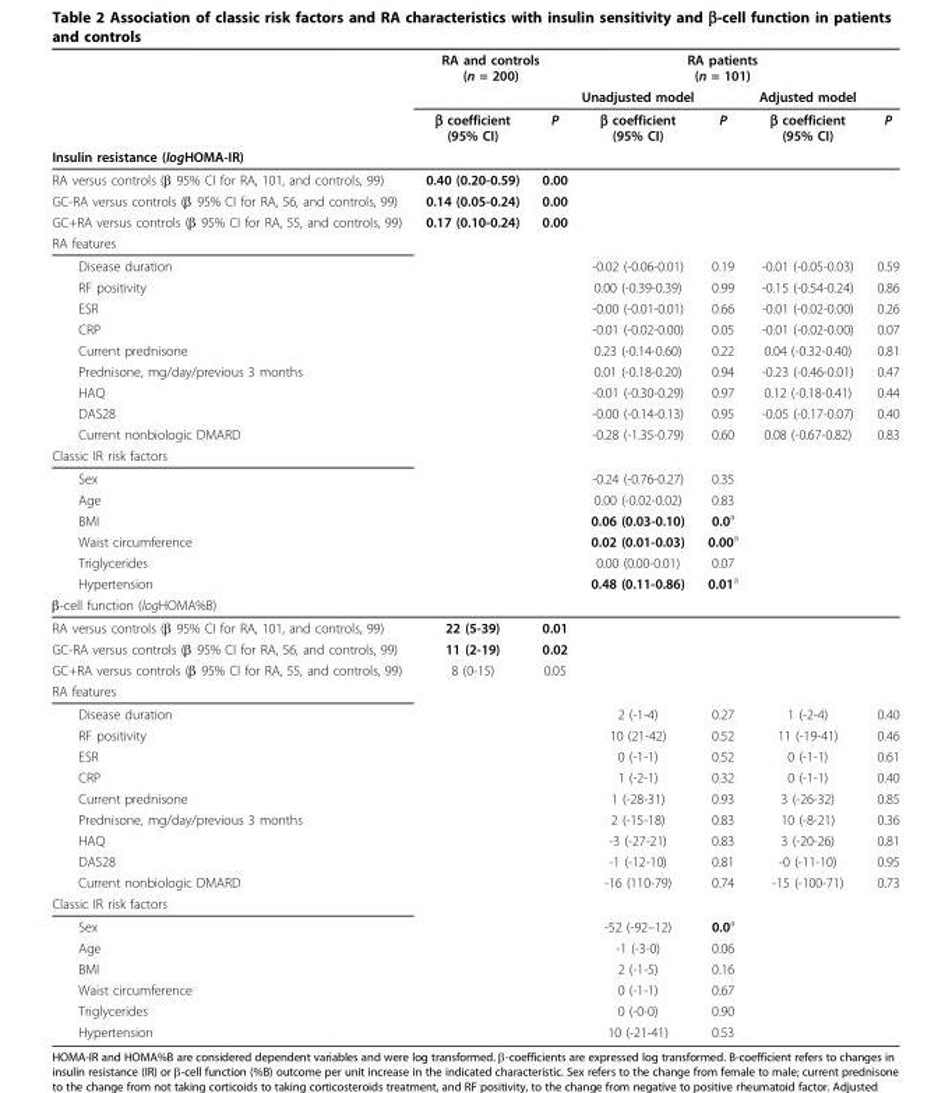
<table><thead><tr><td rowspan="4">Insulin resistance (logHOMA-IR)</td><td colspan="2">RA and controls (n = 200)</td><td colspan="3">RA patients (n = 101)</td><td rowspan="4">P</td></tr><tr><td rowspan="3">β coefficient (95% CI)</td><td rowspan="3">P</td><td rowspan="3">Unadjusted model β coefficient (95% CI)</td><td rowspan="3">P</td><td rowspan="3">Adjusted model β coefficient (95% CI)</td></tr><tr></tr><tr></tr></thead><tbody><tr><td>RA versus controls (β 95% CI for RA, 101, and controls, 99)</td><td>0.40 (0.20-0.59)</td><td>0.00</td><td></td><td></td><td></td><td></td></tr><tr><td>GC-RA versus controls (β 95% CI for RA, 56, and controls, 99)</td><td>0.14 (0.05-0.24)</td><td>0.00</td><td></td><td></td><td></td><td></td></tr><tr><td>GC+RA versus controls (β 95% CI for RA, 55, and controls, 99)</td><td>0.17 (0.10-0.24)</td><td>0.00</td><td></td><td></td><td></td><td></td></tr><tr><td colspan="7">RA features</td></tr><tr><td>Disease duration</td><td></td><td></td><td>-0.02 (-0.06-0.01)</td><td>0.19</td><td>-0.01 (-0.05-0.03)</td><td>0.59</td></tr><tr><td>RF positivity</td><td></td><td></td><td>0.00 (-0.39-0.39)</td><td>0.99</td><td>-0.15 (-0.54-0.24)</td><td>0.86</td></tr><tr><td>ESR</td><td></td><td></td><td>-0.00 (-0.01-0.01)</td><td>0.66</td><td>-0.01 (-0.02-0.00)</td><td>0.26</td></tr><tr><td>CRP</td><td></td><td></td><td>-0.01 (-0.02-0.00)</td><td>0.05</td><td>-0.01 (-0.02-0.00)</td><td>0.07</td></tr><tr><td>Current prednisone</td><td></td><td></td><td>0.23 (-0.14-0.60)</td><td>0.22</td><td>0.04 (-0.32-0.40)</td><td>0.81</td></tr><tr><td>Prednisone, mg/day/previous 3 months</td><td></td><td></td><td>0.01 (-0.18-0.20)</td><td>0.94</td><td>-0.23 (-0.46-0.01)</td><td>0.47</td></tr><tr><td>HAQ</td><td></td><td></td><td>-0.01 (-0.30-0.29)</td><td>0.97</td><td>0.12 (-0.18-0.41)</td><td>0.44</td></tr><tr><td>DAS28</td><td></td><td></td><td>-0.00 (-0.14-0.13)</td><td>0.95</td><td>-0.05 (-0.17-0.07)</td><td>0.40</td></tr><tr><td>Current nonbiologic DMARD</td><td></td><td></td><td>-0.28 (-1.35-0.79)</td><td>0.60</td><td>0.08 (-0.67-0.82)</td><td>0.83</td></tr><tr><td colspan="7">Classic IR risk factors</td></tr><tr><td>Sex</td><td></td><td></td><td>-0.24 (-0.76-0.27)</td><td>0.35</td><td></td><td></td></tr><tr><td>Age</td><td></td><td></td><td>0.00 (-0.02-0.02)</td><td>0.83</td><td></td><td></td></tr><tr><td>BMI</td><td></td><td></td><td>0.06 (0.03-0.10)</td><td>0.0<sup>a</sup></td><td></td><td></td></tr><tr><td>Waist circumference</td><td></td><td></td><td>0.02 (0.01-0.03)</td><td>0.00<sup>a</sup></td><td></td><td></td></tr><tr><td>Triglycerides</td><td></td><td></td><td>0.00 (0.00-0.01)</td><td>0.07</td><td></td><td></td></tr><tr><td>Hypertension</td><td></td><td></td><td>0.48 (0.11-0.86)</td><td>0.01<sup>a</sup></td><td></td><td></td></tr><tr><td colspan="7">β-cell function (logHOMA%B)</td></tr><tr><td>RA versus controls (β 95% CI for RA, 101, and controls, 99)</td><td>22 (5-39)</td><td>0.01</td><td></td><td></td><td></td><td></td></tr><tr><td>GC-RA versus controls (β 95% CI for RA, 56, and controls, 99)</td><td>11 (2-19)</td><td>0.02</td><td></td><td></td><td></td><td></td></tr><tr><td>GC+RA versus controls (β 95% CI for RA, 55, and controls, 99)</td><td>8 (0-15)</td><td>0.05</td><td></td><td></td><td></td><td></td></tr><tr><td colspan="7">RA features</td></tr><tr><td>Disease duration</td><td></td><td></td><td>2 (-1-4)</td><td>0.27</td><td>1 (-2-4)</td><td>0.40</td></tr><tr><td>RF positivity</td><td></td><td></td><td>10 (21-42)</td><td>0.52</td><td>11 (-19-41)</td><td>0.46</td></tr><tr><td>ESR</td><td></td><td></td><td>0 (-1-1)</td><td>0.52</td><td>0 (-1-1)</td><td>0.61</td></tr><tr><td>CRP</td><td></td><td></td><td>1 (-2-1)</td><td>0.32</td><td>0 (-1-1)</td><td>0.40</td></tr><tr><td>Current prednisone</td><td></td><td></td><td>1 (-28-31)</td><td>0.93</td><td>3 (-26-32)</td><td>0.85</td></tr><tr><td>Prednisone, mg/day/previous 3 months</td><td></td><td></td><td>2 (-15-18)</td><td>0.83</td><td>10 (-8-21)</td><td>0.36</td></tr><tr><td>HAQ</td><td></td><td></td><td>-3 (-27-21)</td><td>0.83</td><td>3 (-20-26)</td><td>0.81</td></tr><tr><td>DAS28</td><td></td><td></td><td>-1 (-12-10)</td><td>0.81</td><td>-0 (-11-10)</td><td>0.95</td></tr><tr><td>Current nonbiologic DMARD</td><td></td><td></td><td>-16 (110-79)</td><td>0.74</td><td>-15 (-100-71)</td><td>0.73</td></tr><tr><td colspan="7">Classic IR risk factors</td></tr><tr><td>Sex</td><td></td><td></td><td>-52 (-92–12)</td><td>0.0<sup>a</sup></td><td></td><td></td></tr><tr><td>Age</td><td></td><td></td><td>-1 (-3-0)</td><td>0.06</td><td></td><td></td></tr><tr><td>BMI</td><td></td><td></td><td>2 (-1-5)</td><td>0.16</td><td></td><td></td></tr><tr><td>Waist circumference</td><td></td><td></td><td>0 (-1-1)</td><td>0.67</td><td></td><td></td></tr><tr><td>Triglycerides</td><td></td><td></td><td>0 (-0-0)</td><td>0.90</td><td></td><td></td></tr><tr><td>Hypertension</td><td></td><td></td><td>10 (-21-41)</td><td>0.53</td><td></td><td></td></tr></tbody></table>